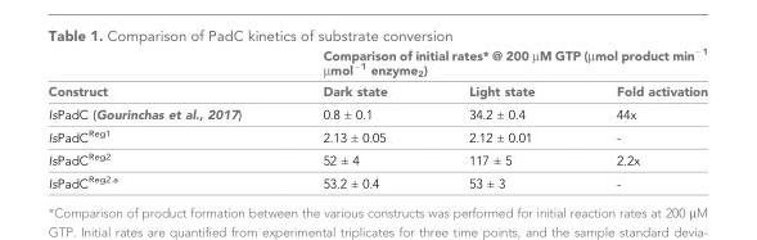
<table><thead><tr><td rowspan="2">Construct</td><td colspan="3">Comparison of initial rates* @ 200 µM GTP (µmol product min<sup>−1</sup> µmol<sup>−1</sup> enzyme<sub>2</sub>)</td></tr><tr><td>Dark state</td><td>Light state</td><td>Fold activation</td></tr></thead><tbody><tr><td>IsPadC (Gourinchas et al., 2017)</td><td>0.8 ± 0.1</td><td>34.2 ± 0.4</td><td>44x</td></tr><tr><td>IsPadC<sup>Reg1</sup></td><td>2.13 ± 0.05</td><td>2.12 ± 0.01</td><td>-</td></tr><tr><td>IsPadC<sup>Reg2</sup></td><td>52 ± 4</td><td>117 ± 5</td><td>2.2x</td></tr><tr><td>IsPadC<sup>Reg2.a</sup></td><td>53.2 ± 0.4</td><td>53 ± 3</td><td>-</td></tr></tbody></table>